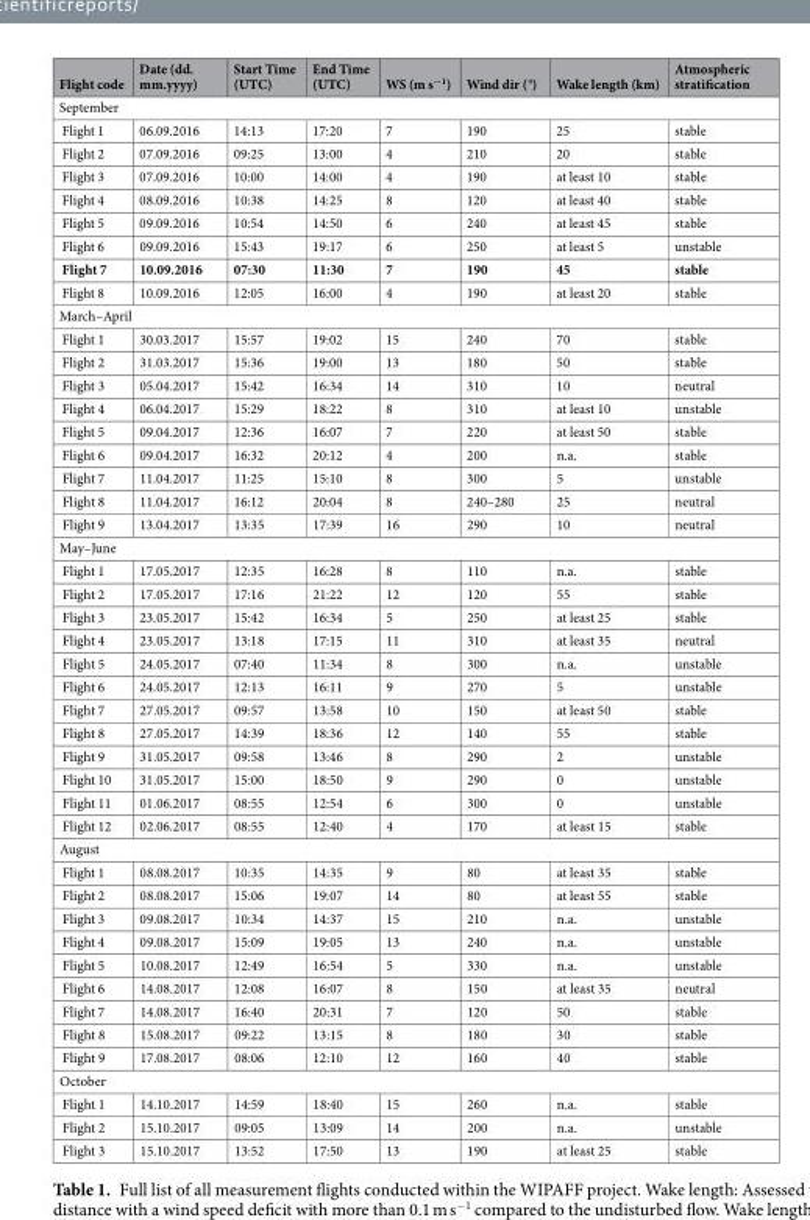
<table><thead><tr><td>Flight code</td><td>Date (dd. mm.yyyy)</td><td>Start Time (UTC)</td><td>End Time (UTC)</td><td>WS (m s<sup>−1</sup>)</td><td>Wind dir (°)</td><td>Wake length (km)</td><td>Atmospheric stratification</td></tr></thead><tbody><tr><td colspan="8">September</td></tr><tr><td>Flight 1</td><td>06.09.2016</td><td>14:13</td><td>17:20</td><td>7</td><td>190</td><td>25</td><td>stable</td></tr><tr><td>Flight 2</td><td>07.09.2016</td><td>09:25</td><td>13:00</td><td>4</td><td>210</td><td>20</td><td>stable</td></tr><tr><td>Flight 3</td><td>07.09.2016</td><td>10:00</td><td>14:00</td><td>4</td><td>190</td><td>at least 10</td><td>stable</td></tr><tr><td>Flight 4</td><td>08.09.2016</td><td>10:38</td><td>14:25</td><td>8</td><td>120</td><td>at least 40</td><td>stable</td></tr><tr><td>Flight 5</td><td>09.09.2016</td><td>10:54</td><td>14:50</td><td>6</td><td>240</td><td>at least 45</td><td>stable</td></tr><tr><td>Flight 6</td><td>09.09.2016</td><td>15:43</td><td>19:17</td><td>6</td><td>250</td><td>at least 5</td><td>unstable</td></tr><tr><td>Flight 7</td><td>10.09.2016</td><td>07:30</td><td>11:30</td><td>7</td><td>190</td><td>45</td><td>stable</td></tr><tr><td>Flight 8</td><td>10.09.2016</td><td>12:05</td><td>16:00</td><td>4</td><td>190</td><td>at least 20</td><td>stable</td></tr><tr><td colspan="8">March–April</td></tr><tr><td>Flight 1</td><td>30.03.2017</td><td>15:57</td><td>19:02</td><td>15</td><td>240</td><td>70</td><td>stable</td></tr><tr><td>Flight 2</td><td>31.03.2017</td><td>15:36</td><td>19:00</td><td>13</td><td>180</td><td>50</td><td>stable</td></tr><tr><td>Flight 3</td><td>05.04.2017</td><td>15:42</td><td>16:34</td><td>14</td><td>310</td><td>10</td><td>neutral</td></tr><tr><td>Flight 4</td><td>06.04.2017</td><td>15:29</td><td>18:22</td><td>8</td><td>310</td><td>at least 10</td><td>unstable</td></tr><tr><td>Flight 5</td><td>09.04.2017</td><td>12:36</td><td>16:07</td><td>7</td><td>220</td><td>at least 50</td><td>stable</td></tr><tr><td>Flight 6</td><td>09.04.2017</td><td>16:32</td><td>20:12</td><td>4</td><td>200</td><td>n.a.</td><td>stable</td></tr><tr><td>Flight 7</td><td>11.04.2017</td><td>11:25</td><td>15:10</td><td>8</td><td>300</td><td>5</td><td>unstable</td></tr><tr><td>Flight 8</td><td>11.04.2017</td><td>16:12</td><td>20:04</td><td>8</td><td>240–280</td><td>25</td><td>neutral</td></tr><tr><td>Flight 9</td><td>13.04.2017</td><td>13:35</td><td>17:39</td><td>16</td><td>290</td><td>10</td><td>neutral</td></tr><tr><td colspan="8">May–June</td></tr><tr><td>Flight 1</td><td>17.05.2017</td><td>12:35</td><td>16:28</td><td>8</td><td>110</td><td>n.a.</td><td>stable</td></tr><tr><td>Flight 2</td><td>17.05.2017</td><td>17:16</td><td>21:22</td><td>12</td><td>120</td><td>55</td><td>stable</td></tr><tr><td>Flight 3</td><td>23.05.2017</td><td>15:42</td><td>16:34</td><td>5</td><td>250</td><td>at least 25</td><td>stable</td></tr><tr><td>Flight 4</td><td>23.05.2017</td><td>13:18</td><td>17:15</td><td>11</td><td>310</td><td>at least 35</td><td>neutral</td></tr><tr><td>Flight 5</td><td>24.05.2017</td><td>07:40</td><td>11:34</td><td>8</td><td>300</td><td>n.a.</td><td>unstable</td></tr><tr><td>Flight 6</td><td>24.05.2017</td><td>12:13</td><td>16:11</td><td>9</td><td>270</td><td>5</td><td>unstable</td></tr><tr><td>Flight 7</td><td>27.05.2017</td><td>09:57</td><td>13:58</td><td>10</td><td>150</td><td>at least 50</td><td>stable</td></tr><tr><td>Flight 8</td><td>27.05.2017</td><td>14:39</td><td>18:36</td><td>12</td><td>140</td><td>55</td><td>stable</td></tr><tr><td>Flight 9</td><td>31.05.2017</td><td>09:58</td><td>13:46</td><td>8</td><td>290</td><td>2</td><td>unstable</td></tr><tr><td>Flight 10</td><td>31.05.2017</td><td>15:00</td><td>18:50</td><td>9</td><td>290</td><td>0</td><td>unstable</td></tr><tr><td>Flight 11</td><td>01.06.2017</td><td>08:55</td><td>12:54</td><td>6</td><td>300</td><td>0</td><td>unstable</td></tr><tr><td>Flight 12</td><td>02.06.2017</td><td>08:55</td><td>12:40</td><td>4</td><td>170</td><td>at least 15</td><td>stable</td></tr><tr><td colspan="8">August</td></tr><tr><td>Flight 1</td><td>08.08.2017</td><td>10:35</td><td>14:35</td><td>9</td><td>80</td><td>at least 35</td><td>stable</td></tr><tr><td>Flight 2</td><td>08.08.2017</td><td>15:06</td><td>19:07</td><td>14</td><td>80</td><td>at least 55</td><td>stable</td></tr><tr><td>Flight 3</td><td>09.08.2017</td><td>10:34</td><td>14:37</td><td>15</td><td>210</td><td>n.a.</td><td>unstable</td></tr><tr><td>Flight 4</td><td>09.08.2017</td><td>15:09</td><td>19:05</td><td>13</td><td>240</td><td>n.a.</td><td>unstable</td></tr><tr><td>Flight 5</td><td>10.08.2017</td><td>12:49</td><td>16:54</td><td>5</td><td>330</td><td>n.a.</td><td>unstable</td></tr><tr><td>Flight 6</td><td>14.08.2017</td><td>12:08</td><td>16:07</td><td>8</td><td>150</td><td>at least 35</td><td>neutral</td></tr><tr><td>Flight 7</td><td>14.08.2017</td><td>16:40</td><td>20:31</td><td>7</td><td>120</td><td>50</td><td>stable</td></tr><tr><td>Flight 8</td><td>15.08.2017</td><td>09:22</td><td>13:15</td><td>8</td><td>180</td><td>30</td><td>stable</td></tr><tr><td>Flight 9</td><td>17.08.2017</td><td>08:06</td><td>12:10</td><td>12</td><td>160</td><td>40</td><td>stable</td></tr><tr><td colspan="8">October</td></tr><tr><td>Flight 1</td><td>14.10.2017</td><td>14:59</td><td>18:40</td><td>15</td><td>260</td><td>n.a.</td><td>stable</td></tr><tr><td>Flight 2</td><td>15.10.2017</td><td>09:05</td><td>13:09</td><td>14</td><td>200</td><td>n.a.</td><td>unstable</td></tr><tr><td>Flight 3</td><td>15.10.2017</td><td>13:52</td><td>17:50</td><td>13</td><td>190</td><td>at least 25</td><td>stable</td></tr></tbody></table>